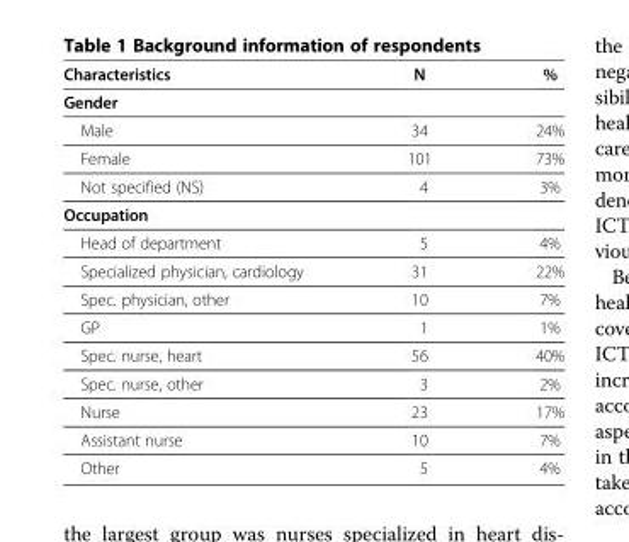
<table><thead><tr><td>Characteristics</td><td>N</td><td>%</td></tr></thead><tbody><tr><td colspan="3">Gender</td></tr><tr><td>Male</td><td>34</td><td>24%</td></tr><tr><td>Female</td><td>101</td><td>73%</td></tr><tr><td>Not specified (NS)</td><td>4</td><td>3%</td></tr><tr><td colspan="3">Occupation</td></tr><tr><td>Head of department</td><td>5</td><td>4%</td></tr><tr><td>Specialized physician, cardiology</td><td>31</td><td>22%</td></tr><tr><td>Spec. physician, other</td><td>10</td><td>7%</td></tr><tr><td>GP</td><td>1</td><td>1%</td></tr><tr><td>Spec. nurse, heart</td><td>56</td><td>40%</td></tr><tr><td>Spec. nurse, other</td><td>3</td><td>2%</td></tr><tr><td>Nurse</td><td>23</td><td>17%</td></tr><tr><td>Assistant nurse</td><td>10</td><td>7%</td></tr><tr><td>Other</td><td>5</td><td>4%</td></tr></tbody></table>